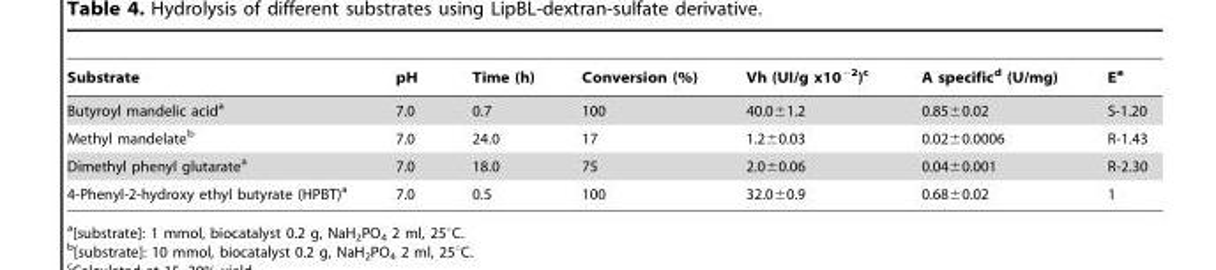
<table><thead><tr><td>Substrate</td><td>pH</td><td>Time (h)</td><td>Conversion (%)</td><td>Vh (UI/g x10<sup>−2</sup>)<sup>c</sup></td><td>A specific<sup>d</sup> (U/mg)</td><td>E<sup>e</sup></td></tr></thead><tbody><tr><td>Butyroyl mandelic acid<sup>a</sup></td><td>7.0</td><td>0.7</td><td>100</td><td>40.0±1.2</td><td>0.85±0.02</td><td>S-1.20</td></tr><tr><td>Methyl mandelate<sup>b</sup></td><td>7.0</td><td>24.0</td><td>17</td><td>1.2±0.03</td><td>0.02±0.0006</td><td>R-1.43</td></tr><tr><td>Dimethyl phenyl glutarate<sup>a</sup></td><td>7.0</td><td>18.0</td><td>75</td><td>2.0±0.06</td><td>0.04±0.001</td><td>R-2.30</td></tr><tr><td>4-Phenyl-2-hydroxy ethyl butyrate (HPBT)<sup>a</sup></td><td>7.0</td><td>0.5</td><td>100</td><td>32.0±0.9</td><td>0.68±0.02</td><td>1</td></tr></tbody></table>